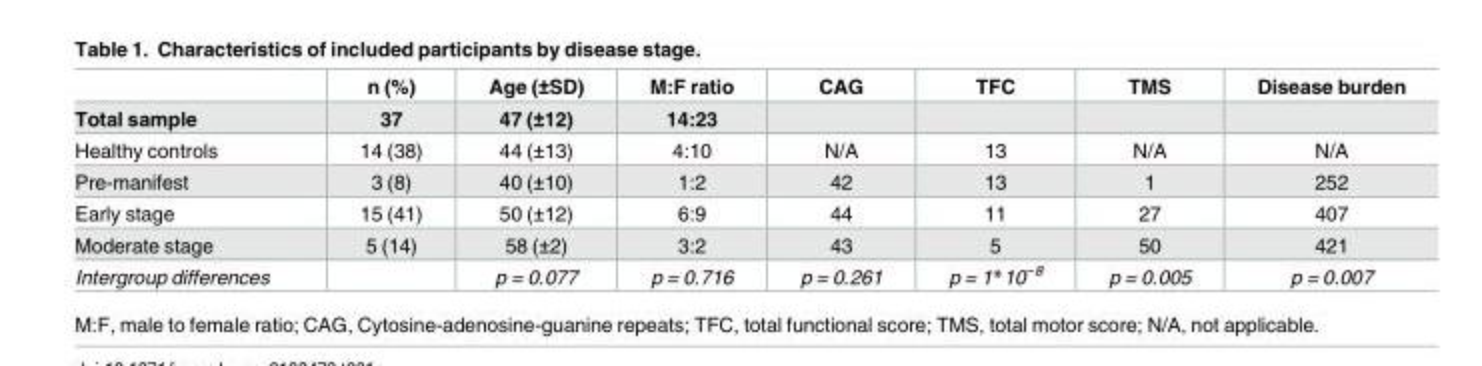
<table><thead><tr><td></td><td>n (%)</td><td>Age (±SD)</td><td>M:F ratio</td><td>CAG</td><td>TFC</td><td>TMS</td><td>Disease burden</td></tr></thead><tbody><tr><td>Total sample</td><td>37</td><td>47 (±12)</td><td>14:23</td><td></td><td></td><td></td><td></td></tr><tr><td>Healthy controls</td><td>14 (38)</td><td>44 (±13)</td><td>4:10</td><td>N/A</td><td>13</td><td>N/A</td><td>N/A</td></tr><tr><td>Pre-manifest</td><td>3 (8)</td><td>40 (±10)</td><td>1:2</td><td>42</td><td>13</td><td>1</td><td>252</td></tr><tr><td>Early stage</td><td>15 (41)</td><td>50 (±12)</td><td>6:9</td><td>44</td><td>11</td><td>27</td><td>407</td></tr><tr><td>Moderate stage</td><td>5 (14)</td><td>58 (±2)</td><td>3:2</td><td>43</td><td>5</td><td>50</td><td>421</td></tr><tr><td>Intergroup differences</td><td></td><td>p = 0.077</td><td>p = 0.716</td><td>p = 0.261</td><td>p = 1*10<sup>−8</sup></td><td>p = 0.005</td><td>p = 0.007</td></tr></tbody></table>